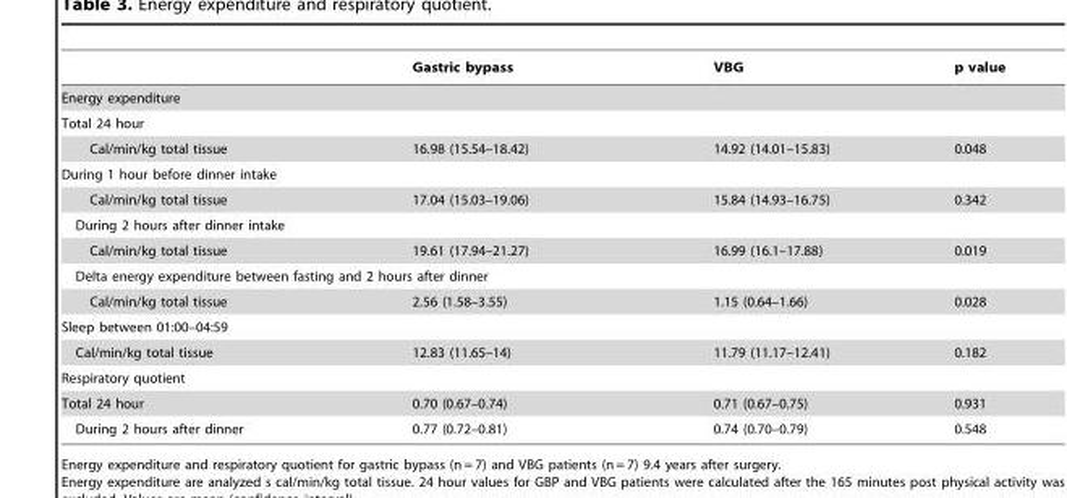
<table><thead><tr><td></td><td>Gastric bypass</td><td>VBG</td><td>p value</td></tr></thead><tbody><tr><td colspan="4">Energy expenditure</td></tr><tr><td colspan="4">Total 24 hour</td></tr><tr><td>Cal/min/kg total tissue</td><td>16.98 (15.54–18.42)</td><td>14.92 (14.01–15.83)</td><td>0.048</td></tr><tr><td colspan="4">During 1 hour before dinner intake</td></tr><tr><td>Cal/min/kg total tissue</td><td>17.04 (15.03–19.06)</td><td>15.84 (14.93–16.75)</td><td>0.342</td></tr><tr><td colspan="4">During 2 hours after dinner intake</td></tr><tr><td>Cal/min/kg total tissue</td><td>19.61 (17.94–21.27)</td><td>16.99 (16.1–17.88)</td><td>0.019</td></tr><tr><td colspan="4">Delta energy expenditure between fasting and 2 hours after dinner</td></tr><tr><td>Cal/min/kg total tissue</td><td>2.56 (1.58–3.55)</td><td>1.15 (0.64–1.66)</td><td>0.028</td></tr><tr><td colspan="4">Sleep between 01:00–04:59</td></tr><tr><td>Cal/min/kg total tissue</td><td>12.83 (11.65–14)</td><td>11.79 (11.17–12.41)</td><td>0.182</td></tr><tr><td colspan="4">Respiratory quotient</td></tr><tr><td>Total 24 hour</td><td>0.70 (0.67–0.74)</td><td>0.71 (0.67–0.75)</td><td>0.931</td></tr><tr><td>During 2 hours after dinner</td><td>0.77 (0.72–0.81)</td><td>0.74 (0.70–0.79)</td><td>0.548</td></tr></tbody></table>